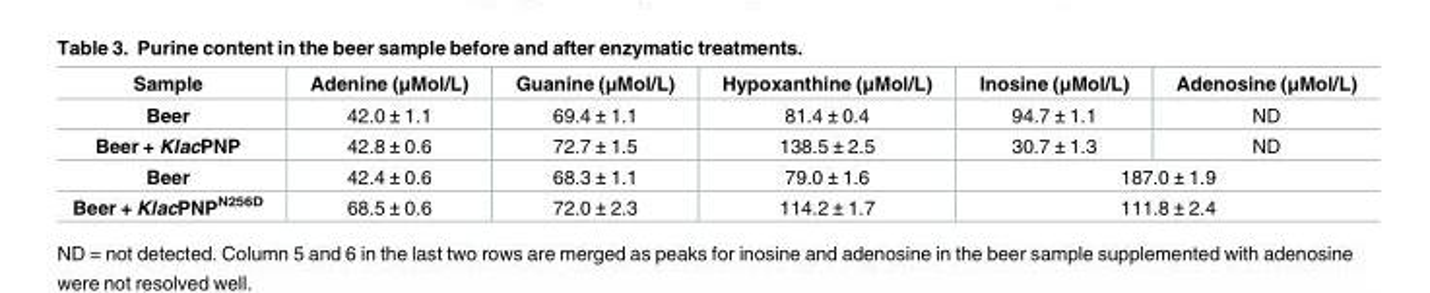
<table><thead><tr><td>Sample</td><td>Adenine (μMol/L)</td><td>Guanine (μMol/L)</td><td>Hypoxanthine (μMol/L)</td><td>Inosine (μMol/L)</td><td>Adenosine (μMol/L)</td></tr></thead><tbody><tr><td>Beer</td><td>42.0 ± 1.1</td><td>69.4 ± 1.1</td><td>81.4 ± 0.4</td><td>94.7 ± 1.1</td><td>ND</td></tr><tr><td>Beer + KlacPNP</td><td>42.8 ± 0.6</td><td>72.7 ± 1.5</td><td>138.5 ± 2.5</td><td>30.7 ± 1.3</td><td>ND</td></tr><tr><td>Beer</td><td>42.4 ± 0.6</td><td>68.3 ± 1.1</td><td>79.0 ± 1.6</td><td colspan="2">187.0 ± 1.9</td></tr><tr><td>Beer + KlacPNP<sup>N256D</sup></td><td>68.5 ± 0.6</td><td>72.0 ± 2.3</td><td>114.2 ± 1.7</td><td colspan="2">111.8 ± 2.4</td></tr></tbody></table>